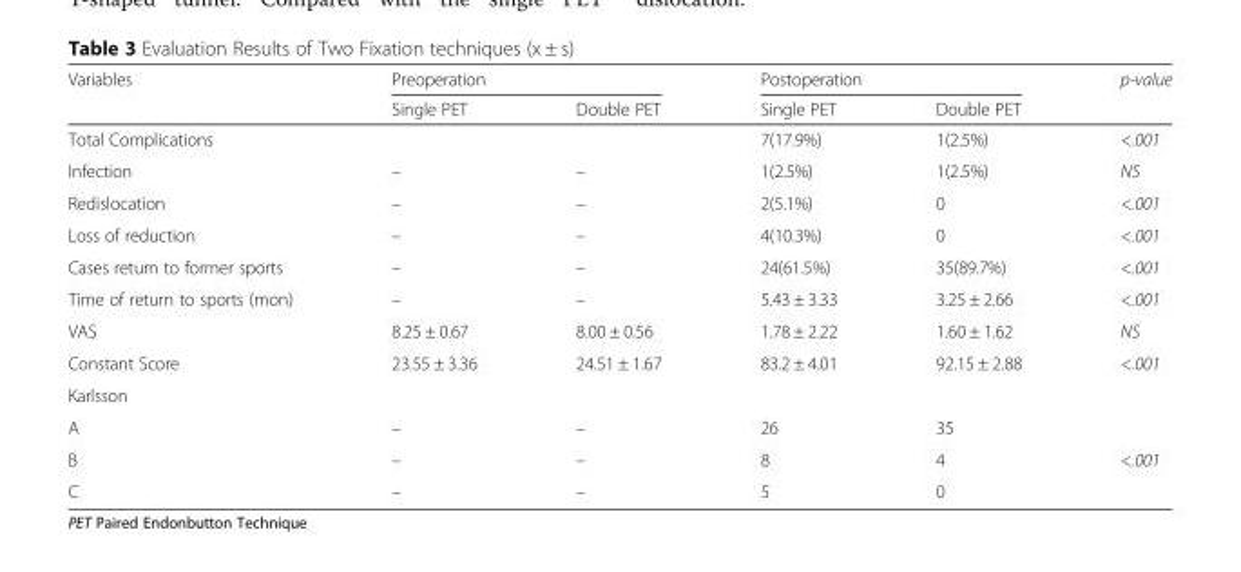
<table><thead><tr><td rowspan="2">Variables</td><td colspan="2">Preoperation</td><td colspan="2">Postoperation</td><td rowspan="2">p-value</td></tr><tr><td>Single PET</td><td>Double PET</td><td>Single PET</td><td>Double PET</td></tr></thead><tbody><tr><td>Total Complications</td><td></td><td></td><td>7(17.9%)</td><td>1(2.5%)</td><td>&lt;.001</td></tr><tr><td>Infection</td><td>–</td><td>–</td><td>1(2.5%)</td><td>1(2.5%)</td><td>NS</td></tr><tr><td>Redislocation</td><td>–</td><td>–</td><td>2(5.1%)</td><td>0</td><td>&lt;.001</td></tr><tr><td>Loss of reduction</td><td>–</td><td>–</td><td>4(10.3%)</td><td>0</td><td>&lt;.001</td></tr><tr><td>Cases return to former sports</td><td>–</td><td>–</td><td>24(61.5%)</td><td>35(89.7%)</td><td>&lt;.001</td></tr><tr><td>Time of return to sports (mon)</td><td>–</td><td>–</td><td>5.43 ± 3.33</td><td>3.25 ± 2.66</td><td>&lt;.001</td></tr><tr><td>VAS</td><td>8.25 ± 0.67</td><td>8.00 ± 0.56</td><td>1.78 ± 2.22</td><td>1.60 ± 1.62</td><td>NS</td></tr><tr><td>Constant Score</td><td>23.55 ± 3.36</td><td>24.51 ± 1.67</td><td>83.2 ± 4.01</td><td>92.15 ± 2.88</td><td>&lt;.001</td></tr><tr><td colspan="6">Karlsson</td></tr><tr><td>A</td><td>–</td><td>–</td><td>26</td><td>35</td><td></td></tr><tr><td>B</td><td>–</td><td>–</td><td>8</td><td>4</td><td>&lt;.001</td></tr><tr><td>C</td><td>–</td><td>–</td><td>5</td><td>0</td><td></td></tr></tbody></table>